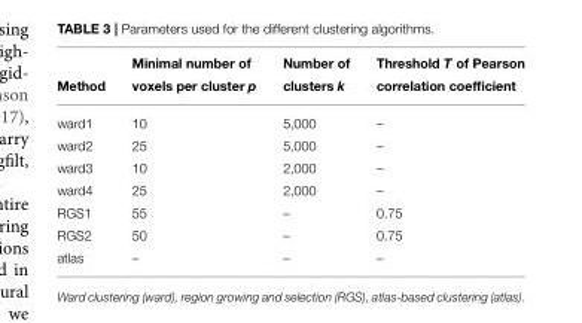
<table><thead><tr><td rowspan="2">Method</td><td rowspan="2">Minimal number of voxels per cluster p</td><td rowspan="2">Number of clusters k</td><td rowspan="2">Threshold T of Pearson correlation coefficient</td></tr><tr></tr></thead><tbody><tr><td>ward1</td><td>10</td><td>5,000</td><td>–</td></tr><tr><td>ward2</td><td>25</td><td>5,000</td><td>–</td></tr><tr><td>ward3</td><td>10</td><td>2,000</td><td>–</td></tr><tr><td>ward4</td><td>25</td><td>2,000</td><td>–</td></tr><tr><td>RGS1</td><td>55</td><td>–</td><td>0.75</td></tr><tr><td>RGS2</td><td>50</td><td>–</td><td>0.75</td></tr><tr><td>atlas</td><td>–</td><td>–</td><td>–</td></tr></tbody></table>